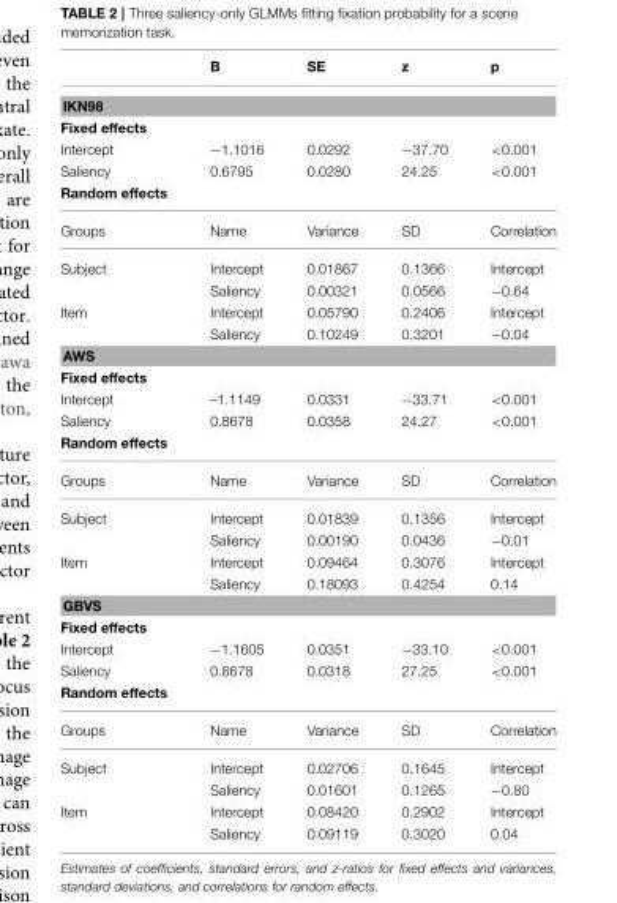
<table><thead><tr><td></td><td>B</td><td>SE</td><td>z</td><td>p</td></tr></thead><tbody><tr><td colspan="5">IKN98</td></tr><tr><td colspan="5">Fixed effects</td></tr><tr><td>Intercept</td><td>−1.1016</td><td>0.0292</td><td>−37.70</td><td>&lt;0.001</td></tr><tr><td>Saliency</td><td>0.6795</td><td>0.0280</td><td>24.25</td><td>&lt;0.001</td></tr><tr><td colspan="5">Random effects</td></tr><tr><td>Groups</td><td>Name</td><td>Variance</td><td>SD</td><td>Correlation</td></tr><tr><td rowspan="2">Subject</td><td>Intercept</td><td>0.01867</td><td>0.1366</td><td>Intercept</td></tr><tr><td>Saliency</td><td>0.00321</td><td>0.0566</td><td>−0.64</td></tr><tr><td rowspan="2">Item</td><td>Intercept</td><td>0.05790</td><td>0.2406</td><td>Intercept</td></tr><tr><td>Saliency</td><td>0.10249</td><td>0.3201</td><td>−0.04</td></tr><tr><td colspan="5">AWS</td></tr><tr><td colspan="5">Fixed effects</td></tr><tr><td>Intercept</td><td>–1.1149</td><td>0.0331</td><td>−33.71</td><td>&lt;0.001</td></tr><tr><td>Saliency</td><td>0.8678</td><td>0.0358</td><td>24.27</td><td>&lt;0.001</td></tr><tr><td colspan="5">Random effects</td></tr><tr><td>Groups</td><td>Name</td><td>Variance</td><td>SD</td><td>Correlation</td></tr><tr><td rowspan="2">Subject</td><td>Intercept</td><td>0.01839</td><td>0.1356</td><td>Intercept</td></tr><tr><td>Saliency</td><td>0.00190</td><td>0.0436</td><td>−0.01</td></tr><tr><td rowspan="2">Item</td><td>Intercept</td><td>0.09464</td><td>0.3076</td><td>Intercept</td></tr><tr><td>Saliency</td><td>0.18093</td><td>0.4254</td><td>0.14</td></tr><tr><td colspan="5">GBVS</td></tr><tr><td colspan="5">Fixed effects</td></tr><tr><td>Intercept</td><td>−1.1605</td><td>0.0351</td><td>−33.10</td><td>&lt;0.001</td></tr><tr><td>Saliency</td><td>0.8678</td><td>0.0318</td><td>27.25</td><td>&lt;0.001</td></tr><tr><td colspan="5">Random effects</td></tr><tr><td>Groups</td><td>Name</td><td>Variance</td><td>SD</td><td>Correlation</td></tr><tr><td rowspan="2">Subject</td><td>Intercept</td><td>0.02706</td><td>0.1645</td><td>Intercept</td></tr><tr><td>Saliency</td><td>0.01601</td><td>0.1265</td><td>−0.80</td></tr><tr><td rowspan="2">Item</td><td>Intercept</td><td>0.08420</td><td>0.2902</td><td>Intercept</td></tr><tr><td>Saliency</td><td>0.09119</td><td>0.3020</td><td>0.04</td></tr></tbody></table>